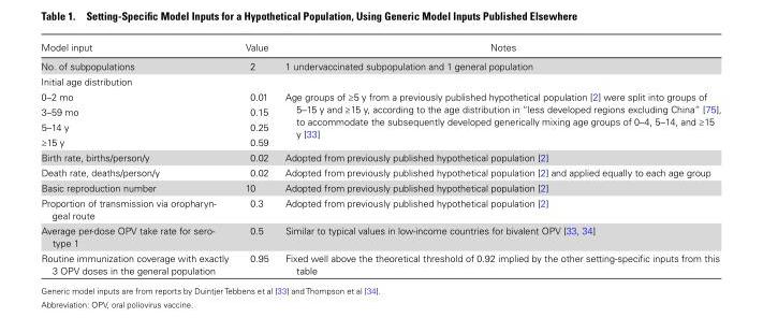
<table><thead><tr><td>Model input</td><td>Value</td><td>Notes</td></tr></thead><tbody><tr><td>No. of subpopulations</td><td>2</td><td>1 undervaccinated subpopulation and 1 general population</td></tr><tr><td colspan="3">Initial age distribution</td></tr><tr><td>0–2 mo</td><td>0.01</td><td rowspan="4">Age groups of ≥5 y from a previously published hypothetical population [2] were split into groups of 5–15 y and ≥15 y, according to the age distribution in “less developed regions excluding China” [75], to accommodate the subsequently developed generically mixing age groups of 0–4, 5–14, and ≥15 y [33]</td></tr><tr><td>3–59 mo</td><td>0.15</td></tr><tr><td>5–14 y</td><td>0.25</td></tr><tr><td>≥15 y</td><td>0.59</td></tr><tr><td>Birth rate, births/person/y</td><td>0.02</td><td>Adopted from previously published hypothetical population [2]</td></tr><tr><td>Death rate, deaths/person/y</td><td>0.02</td><td>Adopted from previously published hypothetical population [2] and applied equally to each age group</td></tr><tr><td>Basic reproduction number</td><td>10</td><td>Adopted from previously published hypothetical population [2]</td></tr><tr><td>Proportion of transmission via oropharyn- geal route</td><td>0.3</td><td>Adopted from previously published hypothetical population [2]</td></tr><tr><td>Average per-dose OPV take rate for sero- type 1</td><td>0.5</td><td>Similar to typical values in low-income countries for bivalent OPV [33, 34]</td></tr><tr><td>Routine immunization coverage with exactly 3 OPV doses in the general population</td><td>0.95</td><td>Fixed well above the theoretical threshold of 0.92 implied by the other setting-specific inputs from this table</td></tr></tbody></table>